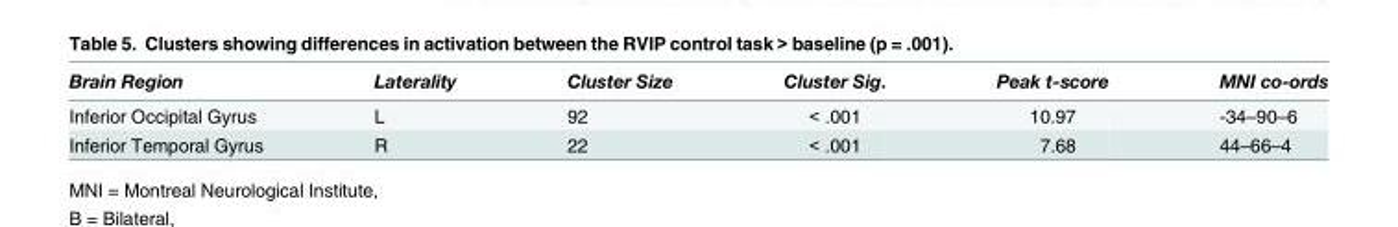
<table><thead><tr><td>Brain Region</td><td>Laterality</td><td>Cluster Size</td><td>Cluster Sig.</td><td>Peak t-score</td><td>MNI co-ords</td></tr></thead><tbody><tr><td>Inferior Occipital Gyrus</td><td>L</td><td>92</td><td>&lt; .001</td><td>10.97</td><td>-34–90–6</td></tr><tr><td>Inferior Temporal Gyrus</td><td>R</td><td>22</td><td>&lt; .001</td><td>7.68</td><td>44–66–4</td></tr></tbody></table>